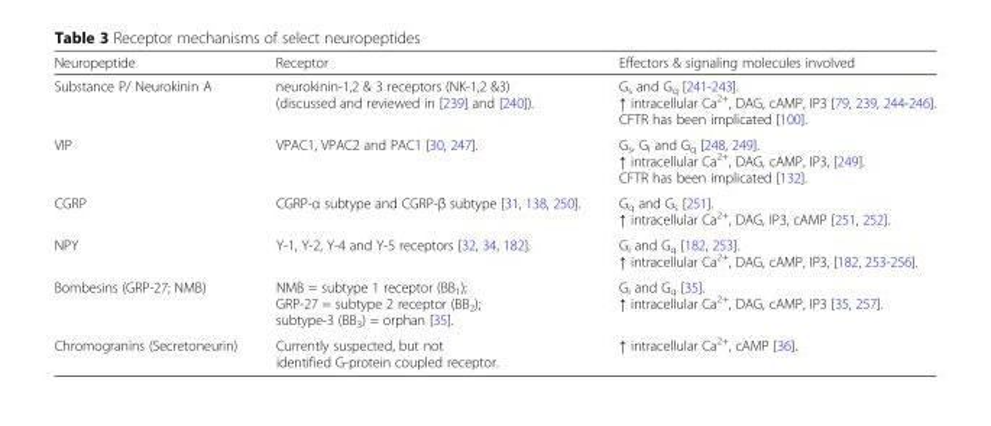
<table><thead><tr><td>Neuropeptide</td><td>Receptor</td><td>Effectors &amp; signaling molecules involved</td></tr></thead><tbody><tr><td>Substance P/ Neurokinin A</td><td>neurokinin-1,2 &amp; 3 receptors (NK-1,2 &amp;3) (discussed and reviewed in [239] and [240]).</td><td>G<sub>s</sub> and G<sub>q</sub> [241-243]. ↑ intracellular Ca<sup>2+</sup>, DAG, cAMP, IP3 [79, 239, 244-246]. CFTR has been implicated [100].</td></tr><tr><td>VIP</td><td>VPAC1, VPAC2 and PAC1 [30, 247].</td><td>G<sub>s</sub>, G<sub>i</sub> and G<sub>q</sub> [248, 249]. ↑ intracellular Ca<sup>2+</sup>, DAG, cAMP, IP3, [249]. CFTR has been implicated [132].</td></tr><tr><td>CGRP</td><td>CGRP-α subtype and CGRP-β subtype [31, 138, 250].</td><td>G<sub>q</sub> and G<sub>s</sub> [251]. ↑ intracellular Ca<sup>2+</sup>, DAG, IP3, cAMP [251, 252].</td></tr><tr><td>NPY</td><td>Y-1, Y-2, Y-4 and Y-5 receptors [32, 34, 182].</td><td>G<sub>i</sub> and G<sub>q</sub> [182, 253]. ↑ intracellular Ca<sup>2+</sup>, DAG, cAMP, IP3, [182, 253-256].</td></tr><tr><td>Bombesins (GRP-27; NMB)</td><td>NMB = subtype 1 receptor (BB<sub>1</sub>); GRP-27 = subtype 2 receptor (BB<sub>2</sub>); subtype-3 (BB<sub>3</sub>) = orphan [35].</td><td>G<sub>i</sub> and G<sub>q</sub> [35]. ↑ intracellular Ca<sup>2+</sup>, DAG, cAMP, IP3 [35, 257].</td></tr><tr><td>Chromogranins (Secretoneurin)</td><td>Currently suspected, but not identified G-protein coupled receptor.</td><td>↑ intracellular Ca<sup>2+</sup>, cAMP [36].</td></tr></tbody></table>